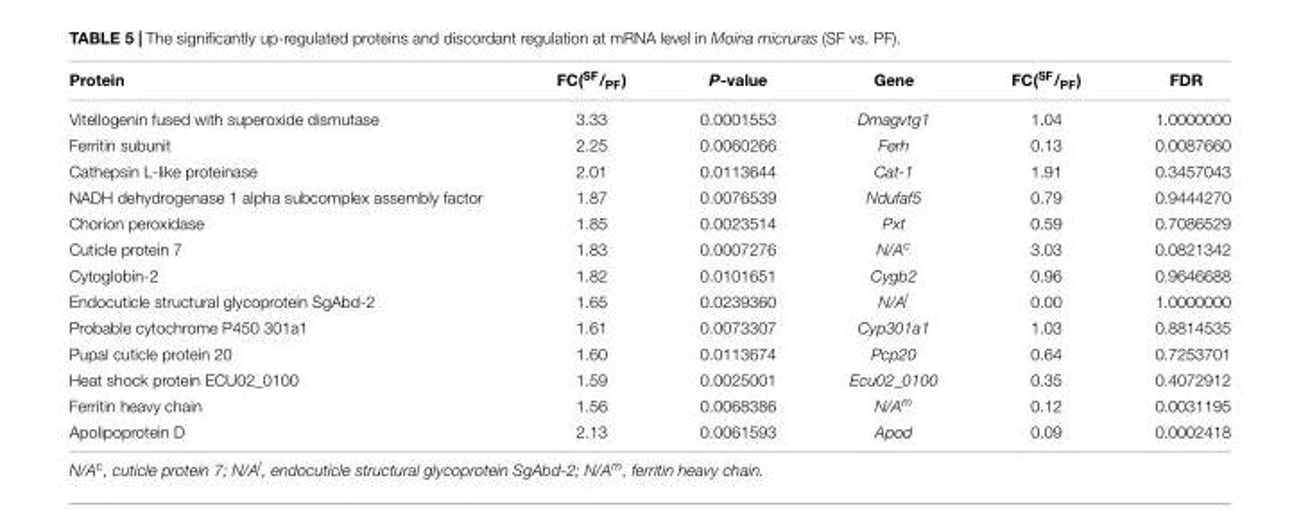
<table><thead><tr><td>Protein</td><td>FC(<sup>SF</sup>/<sub>PF</sub>)</td><td>P-value</td><td>Gene</td><td>FC(<sup>SF</sup>/<sub>PF</sub>)</td><td>FDR</td></tr></thead><tbody><tr><td>Vitellogenin fused with superoxide dismutase</td><td>3.33</td><td>0.0001553</td><td>Dmagvtg1</td><td>1.04</td><td>1.0000000</td></tr><tr><td>Ferritin subunit</td><td>2.25</td><td>0.0060266</td><td>Ferh</td><td>0.13</td><td>0.0087660</td></tr><tr><td>Cathepsin L-like proteinase</td><td>2.01</td><td>0.0113644</td><td>Cat-1</td><td>1.91</td><td>0.3457043</td></tr><tr><td>NADH dehydrogenase 1 alpha subcomplex assembly factor</td><td>1.87</td><td>0.0076539</td><td>Ndufaf5</td><td>0.79</td><td>0.9444270</td></tr><tr><td>Chorion peroxidase</td><td>1.85</td><td>0.0023514</td><td>Pxt</td><td>0.59</td><td>0.7086529</td></tr><tr><td>Cuticle protein 7</td><td>1.83</td><td>0.0007276</td><td>N/A<sup>c</sup></td><td>3.03</td><td>0.0821342</td></tr><tr><td>Cytoglobin-2</td><td>1.82</td><td>0.0101651</td><td>Cygb2</td><td>0.96</td><td>0.9646688</td></tr><tr><td>Endocuticle structural glycoprotein SgAbd-2</td><td>1.65</td><td>0.0239360</td><td>N/A<sup>l</sup></td><td>0.00</td><td>1.0000000</td></tr><tr><td>Probable cytochrome P450 301a1</td><td>1.61</td><td>0.0073307</td><td>Cyp301a1</td><td>1.03</td><td>0.8814535</td></tr><tr><td>Pupal cuticle protein 20</td><td>1.60</td><td>0.0113674</td><td>Pcp20</td><td>0.64</td><td>0.7253701</td></tr><tr><td>Heat shock protein ECU02_0100</td><td>1.59</td><td>0.0025001</td><td>Ecu02_0100</td><td>0.35</td><td>0.4072912</td></tr><tr><td>Ferritin heavy chain</td><td>1.56</td><td>0.0068386</td><td>N/A<sup>m</sup></td><td>0.12</td><td>0.0031195</td></tr><tr><td>Apolipoprotein D</td><td>2.13</td><td>0.0061593</td><td>Apod</td><td>0.09</td><td>0.0002418</td></tr></tbody></table>